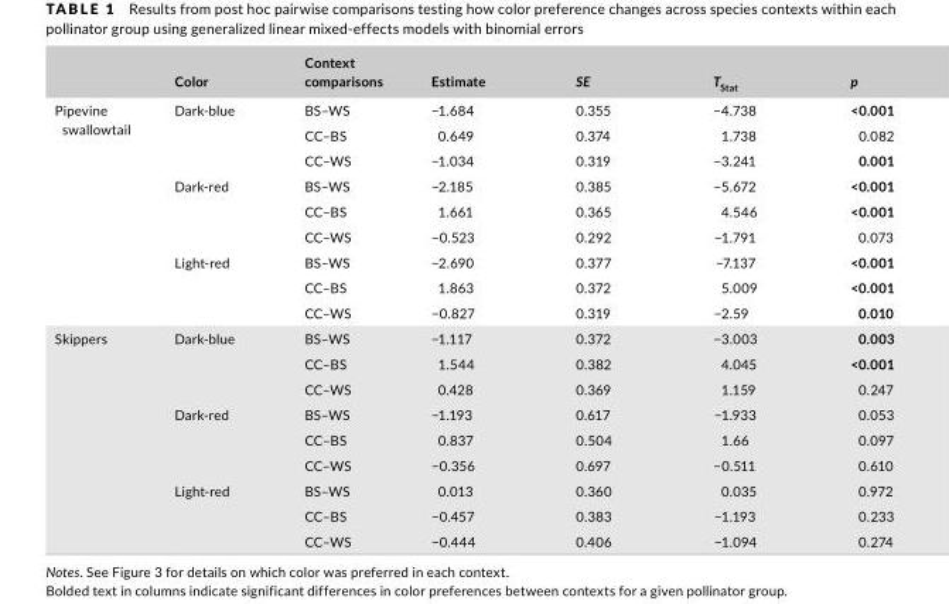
<table><thead><tr><td></td><td>Color</td><td>Context comparisons</td><td>Estimate</td><td>SE</td><td>T<sub>Stat</sub></td><td>p</td></tr></thead><tbody><tr><td rowspan="9">Pipevine swallowtail</td><td rowspan="3">Dark- blue</td><td>BS–WS</td><td>−1.684</td><td>0.355</td><td>−4.738</td><td>&lt;0.001</td></tr><tr><td>CC–BS</td><td>0.649</td><td>0.374</td><td>1.738</td><td>0.082</td></tr><tr><td>CC–WS</td><td>−1.034</td><td>0.319</td><td>−3.241</td><td>0.001</td></tr><tr><td rowspan="3">Dark- red</td><td>BS–WS</td><td>−2.185</td><td>0.385</td><td>−5.672</td><td>&lt;0.001</td></tr><tr><td>CC–BS</td><td>1.661</td><td>0.365</td><td>4.546</td><td>&lt;0.001</td></tr><tr><td>CC–WS</td><td>−0.523</td><td>0.292</td><td>−1.791</td><td>0.073</td></tr><tr><td rowspan="3">Light- red</td><td>BS–WS</td><td>−2.690</td><td>0.377</td><td>−7.137</td><td>&lt;0.001</td></tr><tr><td>CC–BS</td><td>1.863</td><td>0.372</td><td>5.009</td><td>&lt;0.001</td></tr><tr><td>CC–WS</td><td>−0.827</td><td>0.319</td><td>−2.59</td><td>0.010</td></tr><tr><td rowspan="9">Skippers</td><td rowspan="3">Dark- blue</td><td>BS–WS</td><td>−1.117</td><td>0.372</td><td>−3.003</td><td>0.003</td></tr><tr><td>CC–BS</td><td>1.544</td><td>0.382</td><td>4.045</td><td>&lt;0.001</td></tr><tr><td>CC–WS</td><td>0.428</td><td>0.369</td><td>1.159</td><td>0.247</td></tr><tr><td rowspan="3">Dark- red</td><td>BS–WS</td><td>−1.193</td><td>0.617</td><td>−1.933</td><td>0.053</td></tr><tr><td>CC–BS</td><td>0.837</td><td>0.504</td><td>1.66</td><td>0.097</td></tr><tr><td>CC–WS</td><td>−0.356</td><td>0.697</td><td>−0.511</td><td>0.610</td></tr><tr><td rowspan="3">Light- red</td><td>BS–WS</td><td>0.013</td><td>0.360</td><td>0.035</td><td>0.972</td></tr><tr><td>CC–BS</td><td>−0.457</td><td>0.383</td><td>−1.193</td><td>0.233</td></tr><tr><td>CC–WS</td><td>−0.444</td><td>0.406</td><td>−1.094</td><td>0.274</td></tr></tbody></table>